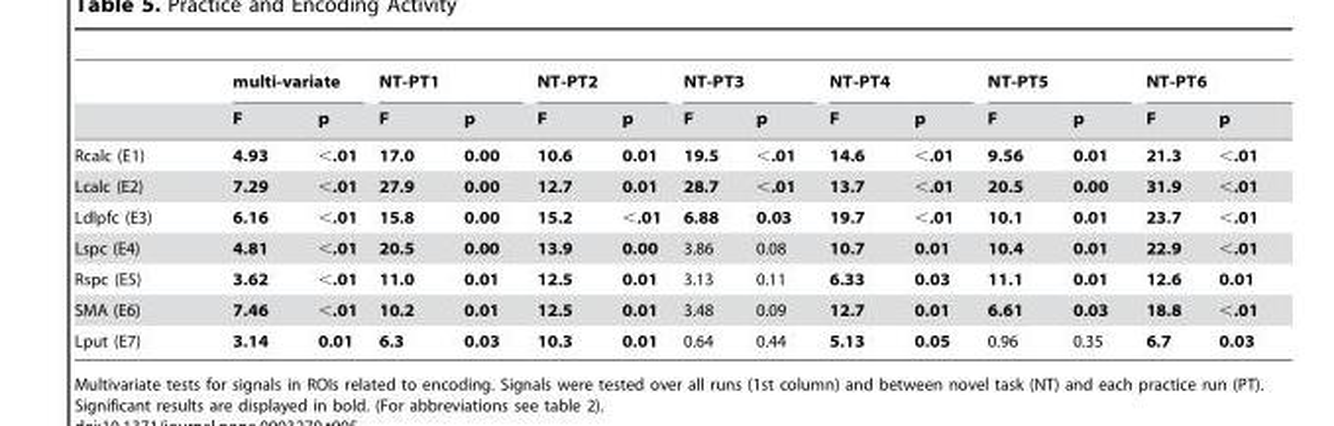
<table><thead><tr><td rowspan="2"></td><td colspan="2">multi-variate</td><td colspan="2">NT-PT1</td><td colspan="2">NT-PT2</td><td colspan="2">NT-PT3</td><td colspan="2">NT-PT4</td><td colspan="2">NT-PT5</td><td colspan="2">NT-PT6</td></tr><tr><td>F</td><td>p</td><td>F</td><td>p</td><td>F</td><td>p</td><td>F</td><td>p</td><td>F</td><td>p</td><td>F</td><td>p</td><td>F</td><td>p</td></tr></thead><tbody><tr><td>Rcalc (E1)</td><td>4.93</td><td>&lt;.01</td><td>17.0</td><td>0.00</td><td>10.6</td><td>0.01</td><td>19.5</td><td>&lt;.01</td><td>14.6</td><td>&lt;.01</td><td>9.56</td><td>0.01</td><td>21.3</td><td>&lt;.01</td></tr><tr><td>Lcalc (E2)</td><td>7.29</td><td>&lt;.01</td><td>27.9</td><td>0.00</td><td>12.7</td><td>0.01</td><td>28.7</td><td>&lt;.01</td><td>13.7</td><td>&lt;.01</td><td>20.5</td><td>0.00</td><td>31.9</td><td>&lt;.01</td></tr><tr><td>Ldlpfc (E3)</td><td>6.16</td><td>&lt;.01</td><td>15.8</td><td>0.00</td><td>15.2</td><td>&lt;.01</td><td>6.88</td><td>0.03</td><td>19.7</td><td>&lt;.01</td><td>10.1</td><td>0.01</td><td>23.7</td><td>&lt;.01</td></tr><tr><td>Lspc (E4)</td><td>4.81</td><td>&lt;.01</td><td>20.5</td><td>0.00</td><td>13.9</td><td>0.00</td><td>3.86</td><td>0.08</td><td>10.7</td><td>0.01</td><td>10.4</td><td>0.01</td><td>22.9</td><td>&lt;.01</td></tr><tr><td>Rspc (E5)</td><td>3.62</td><td>&lt;.01</td><td>11.0</td><td>0.01</td><td>12.5</td><td>0.01</td><td>3.13</td><td>0.11</td><td>6.33</td><td>0.03</td><td>11.1</td><td>0.01</td><td>12.6</td><td>0.01</td></tr><tr><td>SMA (E6)</td><td>7.46</td><td>&lt;.01</td><td>10.2</td><td>0.01</td><td>12.5</td><td>0.01</td><td>3.48</td><td>0.09</td><td>12.7</td><td>0.01</td><td>6.61</td><td>0.03</td><td>18.8</td><td>&lt;.01</td></tr><tr><td>Lput (E7)</td><td>3.14</td><td>0.01</td><td>6.3</td><td>0.03</td><td>10.3</td><td>0.01</td><td>0.64</td><td>0.44</td><td>5.13</td><td>0.05</td><td>0.96</td><td>0.35</td><td>6.7</td><td>0.03</td></tr></tbody></table>